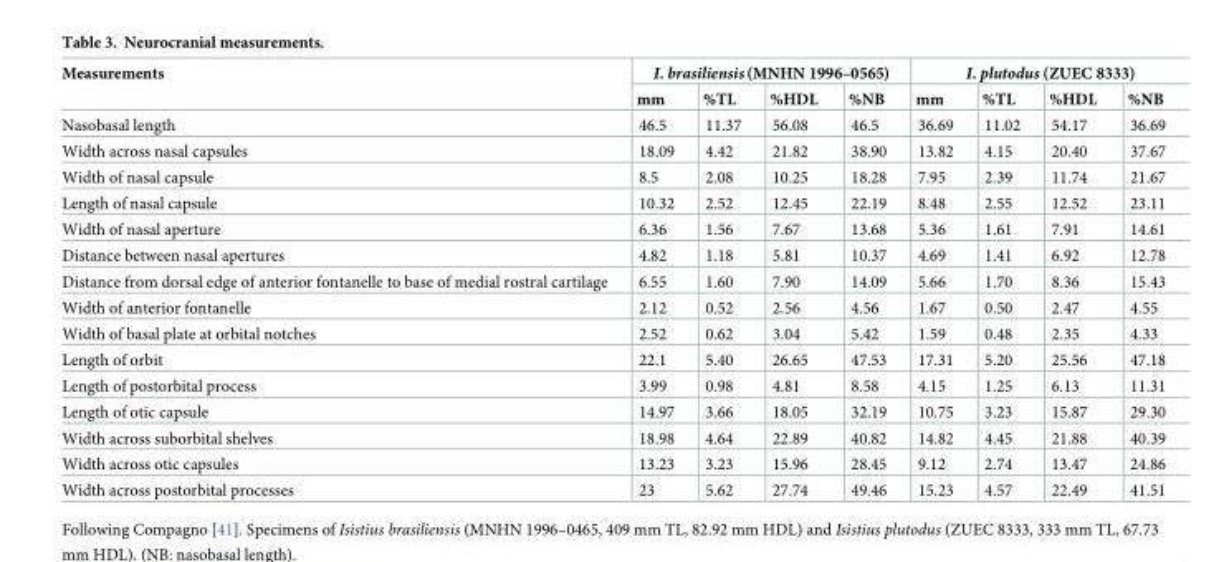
<table><thead><tr><td rowspan="2">Measurements</td><td colspan="4">I. brasiliensis(MNHN 1996–0565)</td><td colspan="4">I. plutodus (ZUEC 8333)</td></tr><tr><td>mm</td><td>%TL</td><td>%HDL</td><td>%NB</td><td>mm</td><td>%TL</td><td>%HDL</td><td>%NB</td></tr></thead><tbody><tr><td>Nasobasal length</td><td>46.5</td><td>11.37</td><td>56.08</td><td>46.5</td><td>36.69</td><td>11.02</td><td>54.17</td><td>36.69</td></tr><tr><td>Width across nasal capsules</td><td>18.09</td><td>4.42</td><td>21.82</td><td>38.90</td><td>13.82</td><td>4.15</td><td>20.40</td><td>37.67</td></tr><tr><td>Width of nasal capsule</td><td>8.5</td><td>2.08</td><td>10.25</td><td>18.28</td><td>7.95</td><td>2.39</td><td>11.74</td><td>21.67</td></tr><tr><td>Length of nasal capsule</td><td>10.32</td><td>2.52</td><td>12.45</td><td>22.19</td><td>8.48</td><td>2.55</td><td>12.52</td><td>23.11</td></tr><tr><td>Width of nasal aperture</td><td>6.36</td><td>1.56</td><td>7.67</td><td>13.68</td><td>5.36</td><td>1.61</td><td>7.91</td><td>14.61</td></tr><tr><td>Distance between nasal apertures</td><td>4.82</td><td>1.18</td><td>5.81</td><td>10.37</td><td>4.69</td><td>1.41</td><td>6.92</td><td>12.78</td></tr><tr><td>Distance from dorsal edge of anterior fontanelle to base of medial rostral cartilage</td><td>6.55</td><td>1.60</td><td>7.90</td><td>14.09</td><td>5.66</td><td>1.70</td><td>8.36</td><td>15.43</td></tr><tr><td>Width of anterior fontanelle</td><td>2.12</td><td>0.52</td><td>2.56</td><td>4.56</td><td>1.67</td><td>0.50</td><td>2.47</td><td>4.55</td></tr><tr><td>Width of basal plate at orbital notches</td><td>2.52</td><td>0.62</td><td>3.04</td><td>5.42</td><td>1.59</td><td>0.48</td><td>2.35</td><td>4.33</td></tr><tr><td>Length of orbit</td><td>22.1</td><td>5.40</td><td>26.65</td><td>47.53</td><td>17.31</td><td>5.20</td><td>25.56</td><td>47.18</td></tr><tr><td>Length of postorbital process</td><td>3.99</td><td>0.98</td><td>4.81</td><td>8.58</td><td>4.15</td><td>1.25</td><td>6.13</td><td>11.31</td></tr><tr><td>Length of otic capsule</td><td>14.97</td><td>3.66</td><td>18.05</td><td>32.19</td><td>10.75</td><td>3.23</td><td>15.87</td><td>29.30</td></tr><tr><td>Width across suborbital shelves</td><td>18.98</td><td>4.64</td><td>22.89</td><td>40.82</td><td>14.82</td><td>4.45</td><td>21.88</td><td>40.39</td></tr><tr><td>Width across otic capsules</td><td>13.23</td><td>3.23</td><td>15.96</td><td>28.45</td><td>9.12</td><td>2.74</td><td>13.47</td><td>24.86</td></tr><tr><td>Width across postorbital processes</td><td>23</td><td>5.62</td><td>27.74</td><td>49.46</td><td>15.23</td><td>4.57</td><td>22.49</td><td>41.51</td></tr></tbody></table>